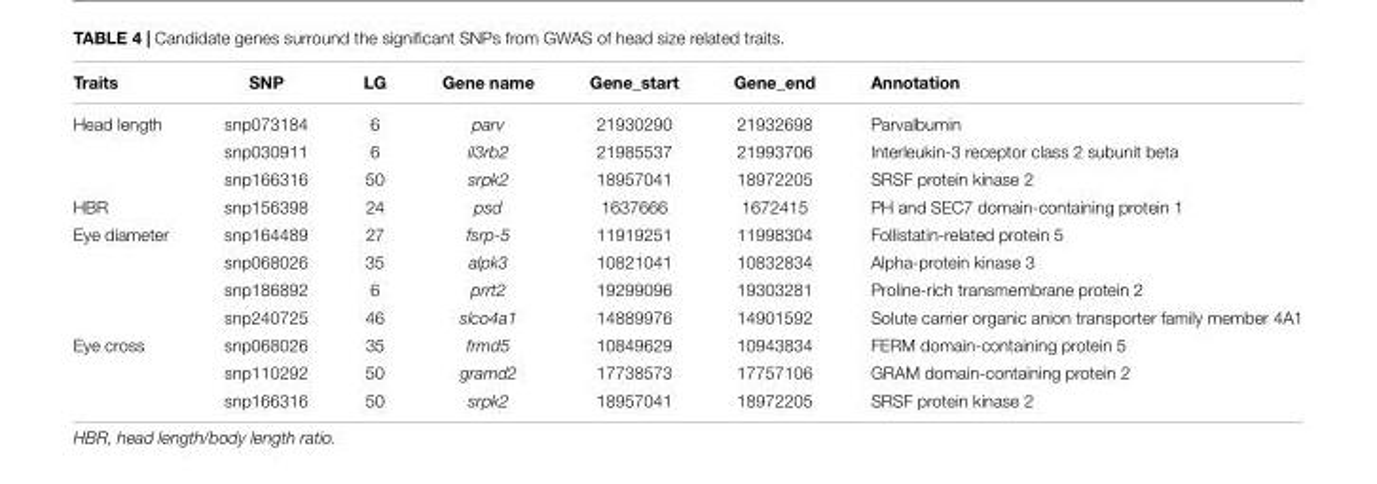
<table><thead><tr><td>Traits</td><td>SNP</td><td>LG</td><td>Gene name</td><td>Gene_start</td><td>Gene_end</td><td>Annotation</td></tr></thead><tbody><tr><td rowspan="3">Head length</td><td>snp073184</td><td>6</td><td>parv</td><td>21930290</td><td>21932698</td><td>Parvalbumin</td></tr><tr><td>snp030911</td><td>6</td><td>il3rb2</td><td>21985537</td><td>21993706</td><td>Interleukin-3 receptor class 2 subunit beta</td></tr><tr><td>snp166316</td><td>50</td><td>srpk2</td><td>18957041</td><td>18972205</td><td>SRSF protein kinase 2</td></tr><tr><td>HBR</td><td>snp156398</td><td>24</td><td>psd</td><td>1637666</td><td>1672415</td><td>PH and SEC7 domain-containing protein 1</td></tr><tr><td rowspan="4">Eye diameter</td><td>snp164489</td><td>27</td><td>fsrp-5</td><td>11919251</td><td>11998304</td><td>Follistatin-related protein 5</td></tr><tr><td>snp068026</td><td>35</td><td>alpk3</td><td>10821041</td><td>10832834</td><td>Alpha-protein kinase 3</td></tr><tr><td>snp186892</td><td>6</td><td>prrt2</td><td>19299096</td><td>19303281</td><td>Proline-rich transmembrane protein 2</td></tr><tr><td>snp240725</td><td>46</td><td>slco4a1</td><td>14889976</td><td>14901592</td><td>Solute carrier organic anion transporter family member 4A1</td></tr><tr><td rowspan="3">Eye cross</td><td>snp068026</td><td>35</td><td>frmd5</td><td>10849629</td><td>10943834</td><td>FERM domain-containing protein 5</td></tr><tr><td>snp110292</td><td>50</td><td>gramd2</td><td>17738573</td><td>17757106</td><td>GRAM domain-containing protein 2</td></tr><tr><td>snp166316</td><td>50</td><td>srpk2</td><td>18957041</td><td>18972205</td><td>SRSF protein kinase 2</td></tr></tbody></table>